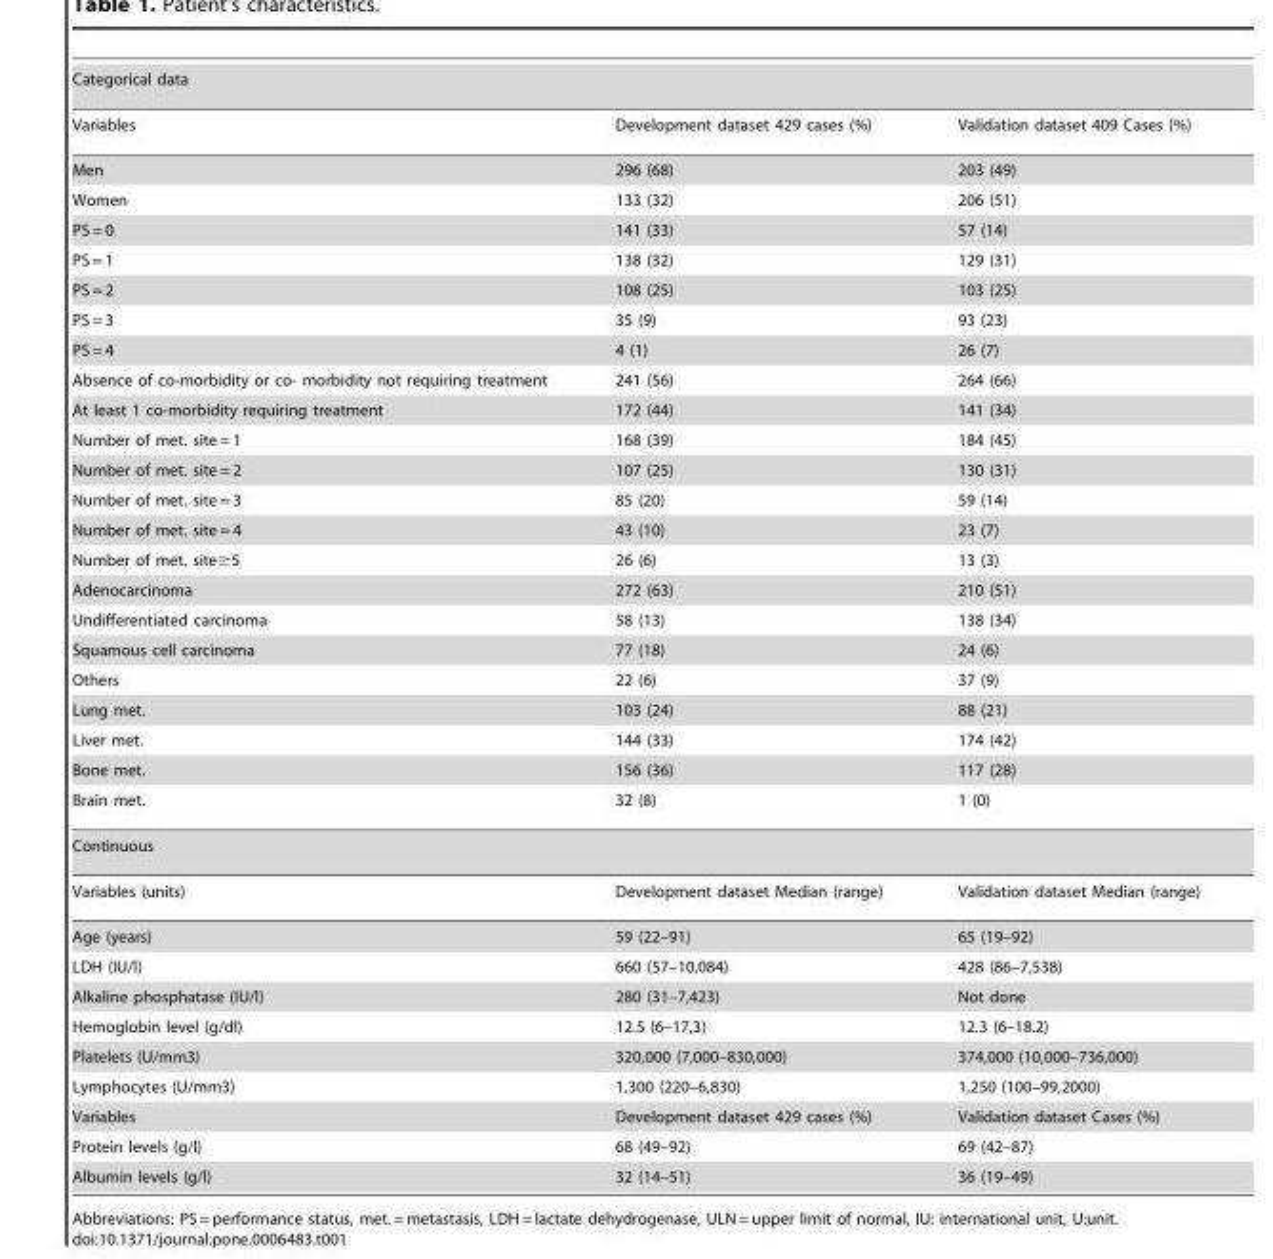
<table><tbody><tr><td colspan="3">Categorical data</td></tr><tr><td>Variables</td><td>Development dataset 429 cases (%)</td><td>Validation dataset 409 Cases (%)</td></tr><tr><td>Men</td><td>296 (68)</td><td>203 (49)</td></tr><tr><td>Women</td><td>133 (32)</td><td>206 (51)</td></tr><tr><td>PS = 0</td><td>141 (33)</td><td>57 (14)</td></tr><tr><td>PS = 1</td><td>138 (32)</td><td>129 (31)</td></tr><tr><td>PS = 2</td><td>108 (25)</td><td>103 (25)</td></tr><tr><td>PS = 3</td><td>35 (9)</td><td>93 (23)</td></tr><tr><td>PS = 4</td><td>4 (1)</td><td>26 (7)</td></tr><tr><td>Absence of co-morbidity or co- morbidity not requiring treatment</td><td>241 (56)</td><td>264 (66)</td></tr><tr><td>At least 1 co-morbidity requiring treatment</td><td>172 (44)</td><td>141 (34)</td></tr><tr><td>Number of met. site = 1</td><td>168 (39)</td><td>184 (45)</td></tr><tr><td>Number of met. site = 2</td><td>107 (25)</td><td>130 (31)</td></tr><tr><td>Number of met. site = 3</td><td>85 (20)</td><td>59 (14)</td></tr><tr><td>Number of met. site = 4</td><td>43 (10)</td><td>23 (7)</td></tr><tr><td>Number of met. site≥5</td><td>26 (6)</td><td>13 (3)</td></tr><tr><td>Adenocarcinoma</td><td>272 (63)</td><td>210 (51)</td></tr><tr><td>Undifferentiated carcinoma</td><td>58 (13)</td><td>138 (34)</td></tr><tr><td>Squamous cell carcinoma</td><td>77 (18)</td><td>24 (6)</td></tr><tr><td>Others</td><td>22 (6)</td><td>37 (9)</td></tr><tr><td>Lung met.</td><td>103 (24)</td><td>88 (21)</td></tr><tr><td>Liver met.</td><td>144 (33)</td><td>174 (42)</td></tr><tr><td>Bone met.</td><td>156 (36)</td><td>117 (28)</td></tr><tr><td>Brain met.</td><td>32 (8)</td><td>1 (0)</td></tr><tr><td colspan="3">Continuous</td></tr><tr><td>Variables (units)</td><td>Development dataset Median (range)</td><td>Validation dataset Median (range)</td></tr><tr><td>Age (years)</td><td>59 (22–91)</td><td>65 (19–92)</td></tr><tr><td>LDH (IU/l)</td><td>660 (57–10,084)</td><td>428 (86–7,538)</td></tr><tr><td>Alkaline phosphatase (IU/l)</td><td>280 (31–7,423)</td><td>Not done</td></tr><tr><td>Hemoglobin level (g/dl)</td><td>12.5 (6–17,3)</td><td>12.3 (6–18.2)</td></tr><tr><td>Platelets (U/mm3)</td><td>320,000 (7,000–830,000)</td><td>374,000 (10,000–736,000)</td></tr><tr><td>Lymphocytes (U/mm3)</td><td>1,300 (220–6,830)</td><td>1,250 (100–99,2000)</td></tr><tr><td>Variables</td><td>Development dataset 429 cases (%)</td><td>Validation dataset Cases (%)</td></tr><tr><td>Protein levels (g/l)</td><td>68 (49–92)</td><td>69 (42–87)</td></tr><tr><td>Albumin levels (g/l)</td><td>32 (14–51)</td><td>36 (19–49)</td></tr></tbody></table>